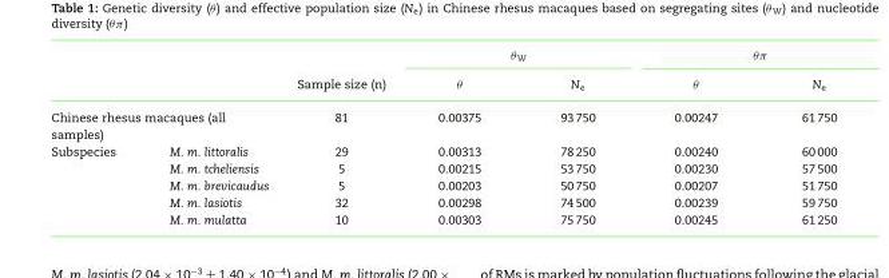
<table><thead><tr><td rowspan="2"></td><td rowspan="2"></td><td rowspan="2">Sample size (n)</td><td colspan="2">θ<sub>W</sub></td><td colspan="2">θπ</td></tr><tr><td>θ</td><td>N<sub>e</sub></td><td>θ</td><td>N<sub>e</sub></td></tr></thead><tbody><tr><td colspan="2">Chinese rhesus macaques (all samples)</td><td>81</td><td>0.00375</td><td>93 750</td><td>0.00247</td><td>61 750</td></tr><tr><td rowspan="5">Subspecies</td><td>M. m. littoralis</td><td>29</td><td>0.00313</td><td>78 250</td><td>0.00240</td><td>60 000</td></tr><tr><td>M. m. tcheliensis</td><td>5</td><td>0.00215</td><td>53 750</td><td>0.00230</td><td>57 500</td></tr><tr><td>M. m. brevicaudus</td><td>5</td><td>0.00203</td><td>50 750</td><td>0.00207</td><td>51 750</td></tr><tr><td>M. m. lasiotis</td><td>32</td><td>0.00298</td><td>74 500</td><td>0.00239</td><td>59 750</td></tr><tr><td>M. m. mulatta</td><td>10</td><td>0.00303</td><td>75 750</td><td>0.00245</td><td>61 250</td></tr></tbody></table>